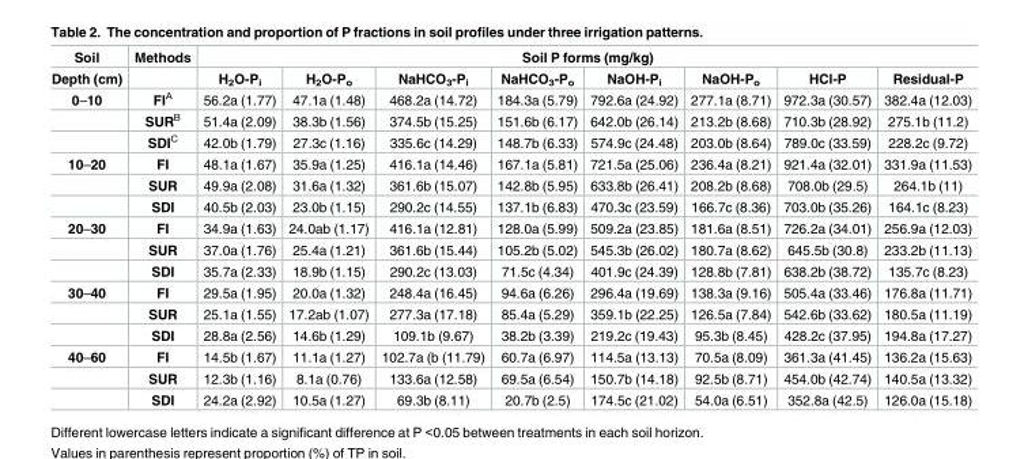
<table><thead><tr><td rowspan="2">Soil Depth (cm)</td><td rowspan="2">Methods</td><td colspan="8">Soil P forms (mg/kg)</td></tr><tr><td>H<sub>2</sub>O-P<sub>i</sub></td><td>H<sub>2</sub>O-P<sub>o</sub></td><td>NaHCO<sub>3</sub>-P<sub>i</sub></td><td>NaHCO<sub>3</sub>-P<sub>o</sub></td><td>NaOH-P<sub>i</sub></td><td>NaOH-P<sub>o</sub></td><td>HCl-P</td><td>Residual-P</td></tr></thead><tbody><tr><td rowspan="3">0–10</td><td>FI<sup>A</sup></td><td>56.2a (1.77)</td><td>47.1a (1.48)</td><td>468.2a (14.72)</td><td>184.3a (5.79)</td><td>792.6a (24.92)</td><td>277.1a (8.71)</td><td>972.3a (30.57)</td><td>382.4a (12.03)</td></tr><tr><td>SUR<sup>B</sup></td><td>51.4a (2.09)</td><td>38.3b (1.56)</td><td>374.5b (15.25)</td><td>151.6b (6.17)</td><td>642.0b (26.14)</td><td>213.2b (8.68)</td><td>710.3b (28.92)</td><td>275.1b (11.2)</td></tr><tr><td>SDI<sup>C</sup></td><td>42.0b (1.79)</td><td>27.3c (1.16)</td><td>335.6c (14.29)</td><td>148.7b (6.33)</td><td>574.9c (24.48)</td><td>203.0b (8.64)</td><td>789.0c (33.59)</td><td>228.2c (9.72)</td></tr><tr><td rowspan="3">10–20</td><td>FI</td><td>48.1a (1.67)</td><td>35.9a (1.25)</td><td>416.1a (14.46)</td><td>167.1a (5.81)</td><td>721.5a (25.06)</td><td>236.4a (8.21)</td><td>921.4a (32.01)</td><td>331.9a (11.53)</td></tr><tr><td>SUR</td><td>49.9a (2.08)</td><td>31.6a (1.32)</td><td>361.6b (15.07)</td><td>142.8b (5.95)</td><td>633.8b (26.41)</td><td>208.2b (8.68)</td><td>708.0b (29.5)</td><td>264.1b (11)</td></tr><tr><td>SDI</td><td>40.5b (2.03)</td><td>23.0b (1.15)</td><td>290.2c (14.55)</td><td>137.1b (6.83)</td><td>470.3c (23.59)</td><td>166.7c (8.36)</td><td>703.0b (35.26)</td><td>164.1c (8.23)</td></tr><tr><td rowspan="3">20–30</td><td>FI</td><td>34.9a (1.63)</td><td>24.0ab (1.17)</td><td>416.1a (12.81)</td><td>128.0a (5.99)</td><td>509.2a (23.85)</td><td>181.6a (8.51)</td><td>726.2a (34.01)</td><td>256.9a (12.03)</td></tr><tr><td>SUR</td><td>37.0a (1.76)</td><td>25.4a (1.21)</td><td>361.6b (15.44)</td><td>105.2b (5.02)</td><td>545.3b (26.02)</td><td>180.7a (8.62)</td><td>645.5b (30.8)</td><td>233.2b (11.13)</td></tr><tr><td>SDI</td><td>35.7a (2.33)</td><td>18.9b (1.15)</td><td>290.2c (13.03)</td><td>71.5c (4.34)</td><td>401.9c (24.39)</td><td>128.8b (7.81)</td><td>638.2b (38.72)</td><td>135.7c (8.23)</td></tr><tr><td rowspan="3">30–40</td><td>FI</td><td>29.5a (1.95)</td><td>20.0a (1.32)</td><td>248.4a (16.45)</td><td>94.6a (6.26)</td><td>296.4a (19.69)</td><td>138.3a (9.16)</td><td>505.4a (33.46)</td><td>176.8a (11.71)</td></tr><tr><td>SUR</td><td>25.1a (1.55)</td><td>17.2ab (1.07)</td><td>277.3a (17.18)</td><td>85.4a (5.29)</td><td>359.1b (22.25)</td><td>126.5a (7.84)</td><td>542.6b (33.62)</td><td>180.5a (11.19)</td></tr><tr><td>SDI</td><td>28.8a (2.56)</td><td>14.6b (1.29)</td><td>109.1b (9.67)</td><td>38.2b (3.39)</td><td>219.2c (19.43)</td><td>95.3b (8.45)</td><td>428.2c (37.95)</td><td>194.8a (17.27)</td></tr><tr><td rowspan="3">40–60</td><td>FI</td><td>14.5b (1.67)</td><td>11.1a (1.27)</td><td>102.7a (b (11.79)</td><td>60.7a (6.97)</td><td>114.5a (13.13)</td><td>70.5a (8.09)</td><td>361.3a (41.45)</td><td>136.2a (15.63)</td></tr><tr><td>SUR</td><td>12.3b (1.16)</td><td>8.1a (0.76)</td><td>133.6a (12.58)</td><td>69.5a (6.54)</td><td>150.7b (14.18)</td><td>92.5b (8.71)</td><td>454.0b (42.74)</td><td>140.5a (13.32)</td></tr><tr><td>SDI</td><td>24.2a (2.92)</td><td>10.5a (1.27)</td><td>69.3b (8.11)</td><td>20.7b (2.5)</td><td>174.5c (21.02)</td><td>54.0a (6.51)</td><td>352.8a (42.5)</td><td>126.0a (15.18)</td></tr></tbody></table>